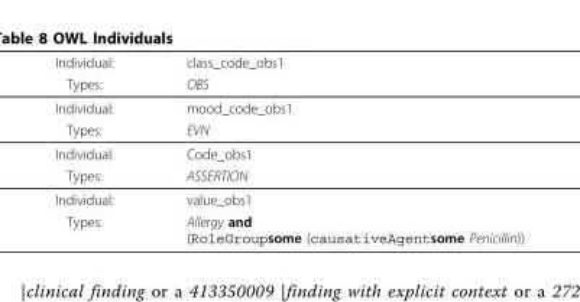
<table><thead><tr><td rowspan="2">Individual: Types:</td><td rowspan="2">class_code_obs1 OBS</td></tr><tr></tr></thead><tbody><tr><td>Individual:</td><td>mood_code_obs1</td></tr><tr><td>Types:</td><td>EVN</td></tr><tr><td>Individual:</td><td>Code_obs1</td></tr><tr><td>Types:</td><td>ASSERTION</td></tr><tr><td>Individual:</td><td>value_obs1</td></tr><tr><td>Types:</td><td>Allergy and (RoleGroupsome (causativeAgentsome Penicillin))</td></tr></tbody></table>